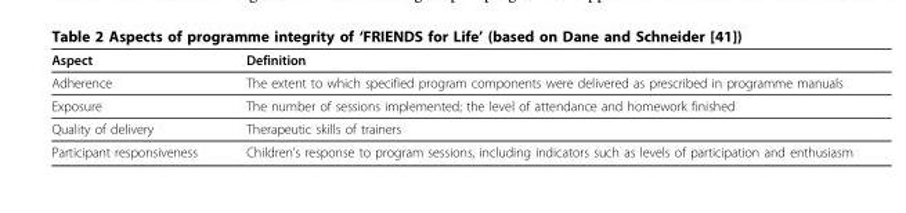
<table><thead><tr><td>Aspect</td><td>Definition</td></tr></thead><tbody><tr><td>Adherence</td><td>The extent to which specified program components were delivered as prescribed in programme manuals</td></tr><tr><td>Exposure</td><td>The number of sessions implemented; the level of attendance and homework finished</td></tr><tr><td>Quality of delivery</td><td>Therapeutic skills of trainers</td></tr><tr><td>Participant responsiveness</td><td>Children’s response to program sessions, including indicators such as levels of participation and enthusiasm</td></tr></tbody></table>